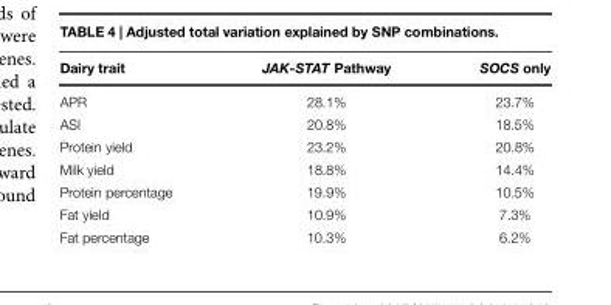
<table><thead><tr><td>Dairy trait</td><td>JAK-STAT Pathway</td><td>SOCS only</td></tr></thead><tbody><tr><td>APR</td><td>28.1%</td><td>23.7%</td></tr><tr><td>ASI</td><td>20.8%</td><td>18.5%</td></tr><tr><td>Protein yield</td><td>23.2%</td><td>20.8%</td></tr><tr><td>Milk yield</td><td>18.8%</td><td>14.4%</td></tr><tr><td>Protein percentage</td><td>19.9%</td><td>10.5%</td></tr><tr><td>Fat yield</td><td>10.9%</td><td>7.3%</td></tr><tr><td>Fat percentage</td><td>10.3%</td><td>6.2%</td></tr></tbody></table>